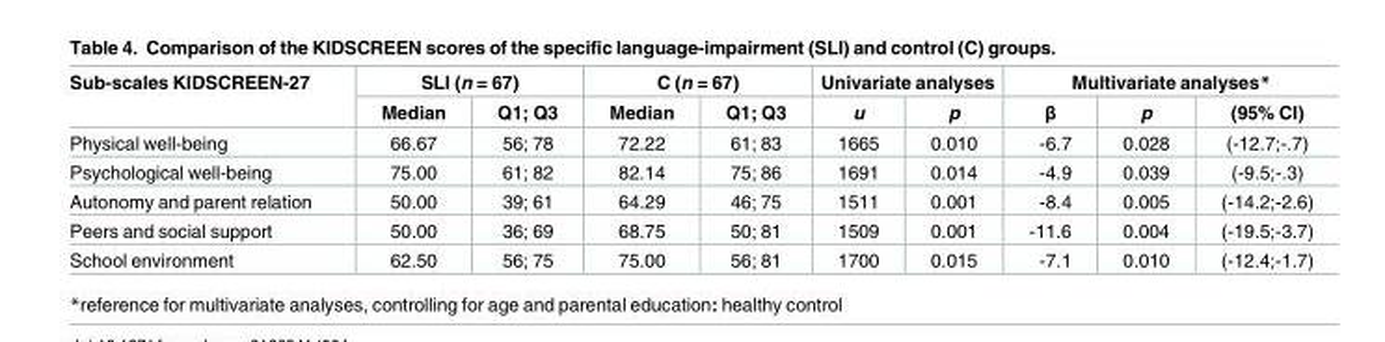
<table><thead><tr><td rowspan="2">Sub-scales KIDSCREEN-27</td><td colspan="2">SLI (n = 67)</td><td colspan="2">C (n = 67)</td><td colspan="2">Univariate analyses</td><td colspan="3">Multivariate analyses*</td></tr><tr><td>Median</td><td>Q1; Q3</td><td>Median</td><td>Q1; Q3</td><td>u</td><td>p</td><td>β</td><td>p</td><td>(95% CI)</td></tr></thead><tbody><tr><td>Physical well-being</td><td>66.67</td><td>56; 78</td><td>72.22</td><td>61; 83</td><td>1665</td><td>0.010</td><td>-6.7</td><td>0.028</td><td>(-12.7;-.7)</td></tr><tr><td>Psychological well-being</td><td>75.00</td><td>61; 82</td><td>82.14</td><td>75; 86</td><td>1691</td><td>0.014</td><td>-4.9</td><td>0.039</td><td>(-9.5;-.3)</td></tr><tr><td>Autonomy and parent relation</td><td>50.00</td><td>39; 61</td><td>64.29</td><td>46; 75</td><td>1511</td><td>0.001</td><td>-8.4</td><td>0.005</td><td>(-14.2;-2.6)</td></tr><tr><td>Peers and social support</td><td>50.00</td><td>36; 69</td><td>68.75</td><td>50; 81</td><td>1509</td><td>0.001</td><td>-11.6</td><td>0.004</td><td>(-19.5;-3.7)</td></tr><tr><td>School environment</td><td>62.50</td><td>56; 75</td><td>75.00</td><td>56; 81</td><td>1700</td><td>0.015</td><td>-7.1</td><td>0.010</td><td>(-12.4;-1.7)</td></tr></tbody></table>